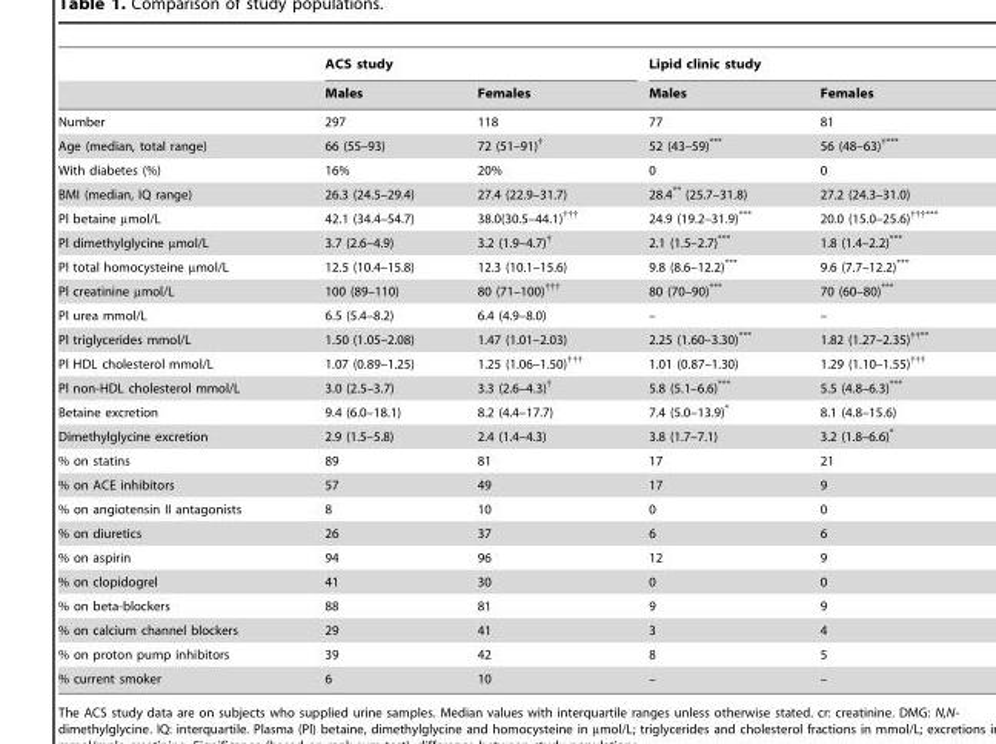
<table><thead><tr><td rowspan="2"></td><td colspan="2">ACS study</td><td colspan="2">Lipid clinic study</td></tr><tr><td>Males</td><td>Females</td><td>Males</td><td>Females</td></tr></thead><tbody><tr><td>Number</td><td>297</td><td>118</td><td>77</td><td>81</td></tr><tr><td>Age (median, total range)</td><td>66 (55–93)</td><td>72 (51–91)†</td><td>52 (43–59)***</td><td>56 (48–63)†***</td></tr><tr><td>With diabetes (%)</td><td>16%</td><td>20%</td><td>0</td><td>0</td></tr><tr><td>BMI (median, IQ range)</td><td>26.3 (24.5–29.4)</td><td>27.4 (22.9–31.7)</td><td>28.4** (25.7–31.8)</td><td>27.2 (24.3–31.0)</td></tr><tr><td>Pl betaine µmol/L</td><td>42.1 (34.4–54.7)</td><td>38.0(30.5–44.1)†††</td><td>24.9 (19.2–31.9)***</td><td>20.0 (15.0–25.6)†††***</td></tr><tr><td>Pl dimethylglycine µmol/L</td><td>3.7 (2.6–4.9)</td><td>3.2 (1.9–4.7)†</td><td>2.1 (1.5–2.7)***</td><td>1.8 (1.4–2.2)***</td></tr><tr><td>Pl total homocysteine µmol/L</td><td>12.5 (10.4–15.8)</td><td>12.3 (10.1–15.6)</td><td>9.8 (8.6–12.2)***</td><td>9.6 (7.7–12.2)***</td></tr><tr><td>Pl creatinine µmol/L</td><td>100 (89–110)</td><td>80 (71–100)†††</td><td>80 (70–90)***</td><td>70 (60–80)***</td></tr><tr><td>Pl urea mmol/L</td><td>6.5 (5.4–8.2)</td><td>6.4 (4.9–8.0)</td><td>–</td><td>–</td></tr><tr><td>Pl triglycerides mmol/L</td><td>1.50 (1.05–2.08)</td><td>1.47 (1.01–2.03)</td><td>2.25 (1.60–3.30)***</td><td>1.82 (1.27–2.35)††**</td></tr><tr><td>Pl HDL cholesterol mmol/L</td><td>1.07 (0.89–1.25)</td><td>1.25 (1.06–1.50)†††</td><td>1.01 (0.87–1.30)</td><td>1.29 (1.10–1.55)†††</td></tr><tr><td>Pl non-HDL cholesterol mmol/L</td><td>3.0 (2.5–3.7)</td><td>3.3 (2.6–4.3)†</td><td>5.8 (5.1–6.6)***</td><td>5.5 (4.8–6.3)***</td></tr><tr><td>Betaine excretion</td><td>9.4 (6.0–18.1)</td><td>8.2 (4.4–17.7)</td><td>7.4 (5.0–13.9)*</td><td>8.1 (4.8–15.6)</td></tr><tr><td>Dimethylglycine excretion</td><td>2.9 (1.5–5.8)</td><td>2.4 (1.4–4.3)</td><td>3.8 (1.7–7.1)</td><td>3.2 (1.8–6.6)*</td></tr><tr><td>% on statins</td><td>89</td><td>81</td><td>17</td><td>21</td></tr><tr><td>% on ACE inhibitors</td><td>57</td><td>49</td><td>17</td><td>9</td></tr><tr><td>% on angiotensin II antagonists</td><td>8</td><td>10</td><td>0</td><td>0</td></tr><tr><td>% on diuretics</td><td>26</td><td>37</td><td>6</td><td>6</td></tr><tr><td>% on aspirin</td><td>94</td><td>96</td><td>12</td><td>9</td></tr><tr><td>% on clopidogrel</td><td>41</td><td>30</td><td>0</td><td>0</td></tr><tr><td>% on beta-blockers</td><td>88</td><td>81</td><td>9</td><td>9</td></tr><tr><td>% on calcium channel blockers</td><td>29</td><td>41</td><td>3</td><td>4</td></tr><tr><td>% on proton pump inhibitors</td><td>39</td><td>42</td><td>8</td><td>5</td></tr><tr><td>% current smoker</td><td>6</td><td>10</td><td>–</td><td>–</td></tr></tbody></table>